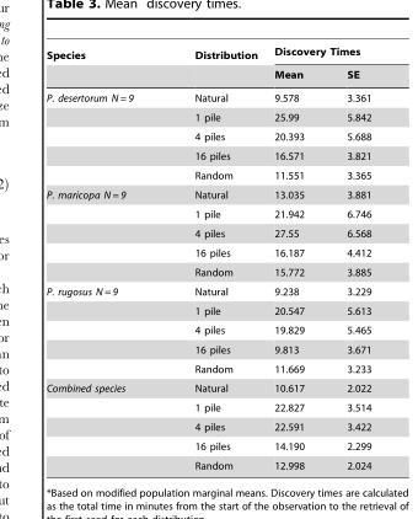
<table><thead><tr><td rowspan="2">Species</td><td rowspan="2">Distribution</td><td colspan="2">Discovery Times</td></tr><tr><td>Mean</td><td>SE</td></tr></thead><tbody><tr><td rowspan="5">P. desertorum N = 9</td><td>Natural</td><td>9.578</td><td>3.361</td></tr><tr><td>1 pile</td><td>25.99</td><td>5.842</td></tr><tr><td>4 piles</td><td>20.393</td><td>5.688</td></tr><tr><td>16 piles</td><td>16.571</td><td>3.821</td></tr><tr><td>Random</td><td>11.551</td><td>3.365</td></tr><tr><td rowspan="5">P. maricopa N = 9</td><td>Natural</td><td>13.035</td><td>3.881</td></tr><tr><td>1 pile</td><td>21.942</td><td>6.746</td></tr><tr><td>4 piles</td><td>27.55</td><td>6.568</td></tr><tr><td>16 piles</td><td>16.187</td><td>4.412</td></tr><tr><td>Random</td><td>15.772</td><td>3.885</td></tr><tr><td rowspan="5">P. rugosus N = 9</td><td>Natural</td><td>9.238</td><td>3.229</td></tr><tr><td>1 pile</td><td>20.547</td><td>5.613</td></tr><tr><td>4 piles</td><td>19.829</td><td>5.465</td></tr><tr><td>16 piles</td><td>9.813</td><td>3.671</td></tr><tr><td>Random</td><td>11.669</td><td>3.233</td></tr><tr><td rowspan="5">Combined species</td><td>Natural</td><td>10.617</td><td>2.022</td></tr><tr><td>1 pile</td><td>22.827</td><td>3.514</td></tr><tr><td>4 piles</td><td>22.591</td><td>3.422</td></tr><tr><td>16 piles</td><td>14.190</td><td>2.299</td></tr><tr><td>Random</td><td>12.998</td><td>2.024</td></tr></tbody></table>